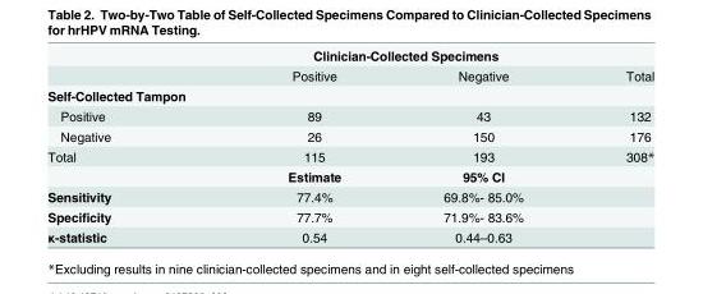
<table><thead><tr><td rowspan="2"></td><td colspan="2">Clinician-Collected Specimens</td><td rowspan="2">Total</td></tr><tr><td>Positive</td><td>Negative</td></tr></thead><tbody><tr><td colspan="4">Self-Collected Tampon</td></tr><tr><td>Positive</td><td>89</td><td>43</td><td>132</td></tr><tr><td>Negative</td><td>26</td><td>150</td><td>176</td></tr><tr><td rowspan="2">Total</td><td>115</td><td>193</td><td>308*</td></tr><tr><td>Estimate</td><td>95% CI</td><td></td></tr><tr><td>Sensitivity</td><td>77.4%</td><td>69.8%- 85.0%</td><td></td></tr><tr><td>Specificity</td><td>77.7%</td><td>71.9%- 83.6%</td><td></td></tr><tr><td>κ-statistic</td><td>0.54</td><td>0.44–0.63</td><td></td></tr></tbody></table>